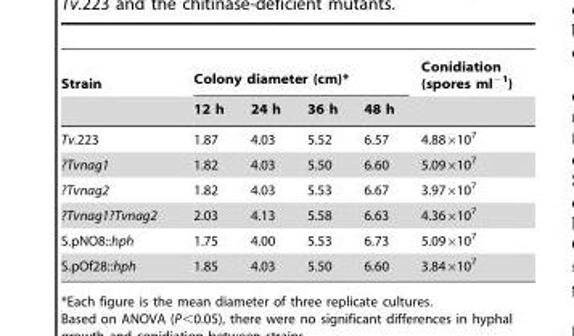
<table><thead><tr><td rowspan="2">Strain</td><td colspan="4">Colony diameter (cm)*</td><td rowspan="2">Conidiation (spores ml<sup>−1</sup>)</td></tr><tr><td>12 h</td><td>24 h</td><td>36 h</td><td>48 h</td></tr></thead><tbody><tr><td>Tv.223</td><td>1.87</td><td>4.03</td><td>5.52</td><td>6.57</td><td>4.88×10<sup>7</sup></td></tr><tr><td>?Tvnag1</td><td>1.82</td><td>4.03</td><td>5.50</td><td>6.60</td><td>5.09×10<sup>7</sup></td></tr><tr><td>?Tvnag2</td><td>1.82</td><td>4.03</td><td>5.53</td><td>6.67</td><td>3.97×10<sup>7</sup></td></tr><tr><td>?Tvnag1?Tvnag2</td><td>2.03</td><td>4.13</td><td>5.58</td><td>6.63</td><td>4.36×10<sup>7</sup></td></tr><tr><td>S.pNO8::hph</td><td>1.75</td><td>4.00</td><td>5.53</td><td>6.73</td><td>5.09×10<sup>7</sup></td></tr><tr><td>S.pOf28::hph</td><td>1.85</td><td>4.03</td><td>5.50</td><td>6.60</td><td>3.84×10<sup>7</sup></td></tr></tbody></table>